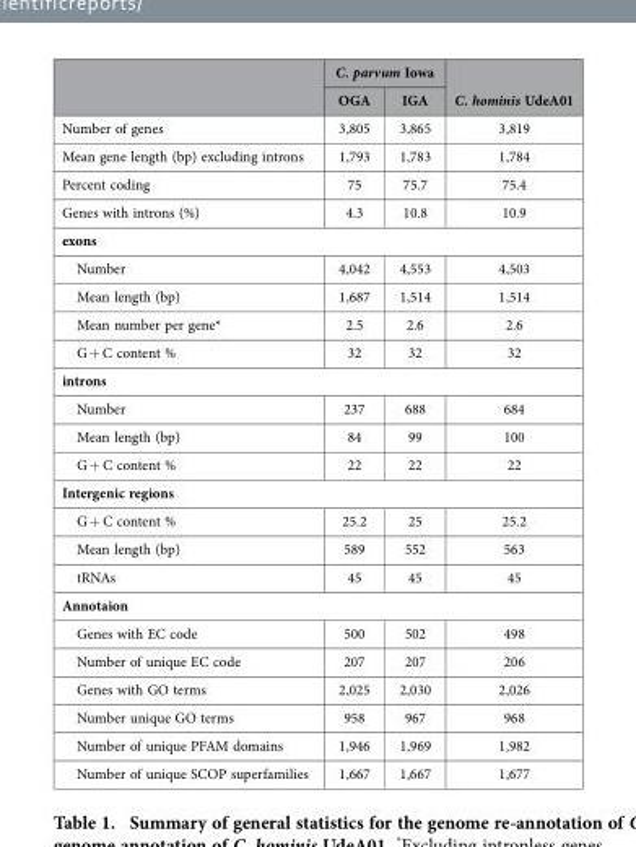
<table><thead><tr><td rowspan="2"></td><td colspan="2">C. parvum Iowa</td><td rowspan="2">C. hominis UdeA01</td></tr><tr><td>OGA</td><td>IGA</td></tr></thead><tbody><tr><td>Number of genes</td><td>3,805</td><td>3,865</td><td>3,819</td></tr><tr><td>Mean gene length (bp) excluding introns</td><td>1,793</td><td>1,783</td><td>1,784</td></tr><tr><td>Percent coding</td><td>75</td><td>75.7</td><td>75.4</td></tr><tr><td>Genes with introns (%)</td><td>4.3</td><td>10.8</td><td>10.9</td></tr><tr><td colspan="4">exons</td></tr><tr><td>Number</td><td>4,042</td><td>4,553</td><td>4,503</td></tr><tr><td>Mean length (bp)</td><td>1,687</td><td>1,514</td><td>1,514</td></tr><tr><td>Mean number per gene*</td><td>2.5</td><td>2.6</td><td>2.6</td></tr><tr><td>G + C content %</td><td>32</td><td>32</td><td>32</td></tr><tr><td colspan="4">introns</td></tr><tr><td>Number</td><td>237</td><td>688</td><td>684</td></tr><tr><td>Mean length (bp)</td><td>84</td><td>99</td><td>100</td></tr><tr><td>G + C content %</td><td>22</td><td>22</td><td>22</td></tr><tr><td colspan="4">Intergenic regions</td></tr><tr><td>G + C content %</td><td>25.2</td><td>25</td><td>25.2</td></tr><tr><td>Mean length (bp)</td><td>589</td><td>552</td><td>563</td></tr><tr><td>tRNAs</td><td>45</td><td>45</td><td>45</td></tr><tr><td colspan="4">Annotaion</td></tr><tr><td>Genes with EC code</td><td>500</td><td>502</td><td>498</td></tr><tr><td>Number of unique EC code</td><td>207</td><td>207</td><td>206</td></tr><tr><td>Genes with GO terms</td><td>2,025</td><td>2,030</td><td>2,026</td></tr><tr><td>Number unique GO terms</td><td>958</td><td>967</td><td>968</td></tr><tr><td>Number of unique PFAM domains</td><td>1,946</td><td>1,969</td><td>1,982</td></tr><tr><td>Number of unique SCOP superfamilies</td><td>1,667</td><td>1,667</td><td>1,677</td></tr></tbody></table>